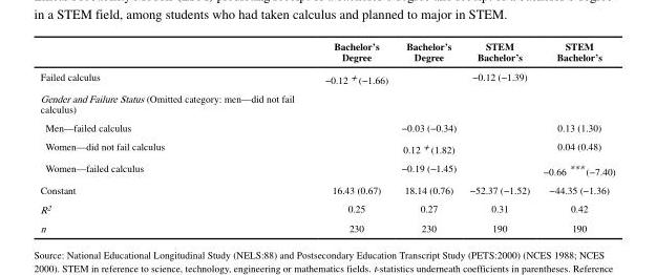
<table><thead><tr><td></td><td>Bachelor’s Degree</td><td>Bachelor’s Degree</td><td>STEM Bachelor’s</td><td>STEM Bachelor’s</td></tr></thead><tbody><tr><td>Failed calculus</td><td>−0.12 + (−1.66)</td><td></td><td>−0.12 (−1.39)</td><td></td></tr><tr><td colspan="5">Gender and Failure Status (Omitted category: men—did not fail calculus)</td></tr><tr><td>Men—failed calculus</td><td></td><td>−0.03 (−0.34)</td><td></td><td>0.13 (1.30)</td></tr><tr><td>Women—did not fail calculus</td><td></td><td>0.12 + (1.82)</td><td></td><td>0.04 (0.48)</td></tr><tr><td>Women—failed calculus</td><td></td><td>−0.19 (−1.45)</td><td></td><td>−0.66 *** (−7.40)</td></tr><tr><td>Constant</td><td>16.43 (0.67)</td><td>18.14 (0.76)</td><td>−52.37 (−1.52)</td><td>−44.35 (−1.36)</td></tr><tr><td>R<sup>2</sup></td><td>0.25</td><td>0.27</td><td>0.31</td><td>0.42</td></tr><tr><td>n</td><td>230</td><td>230</td><td>190</td><td>190</td></tr></tbody></table>